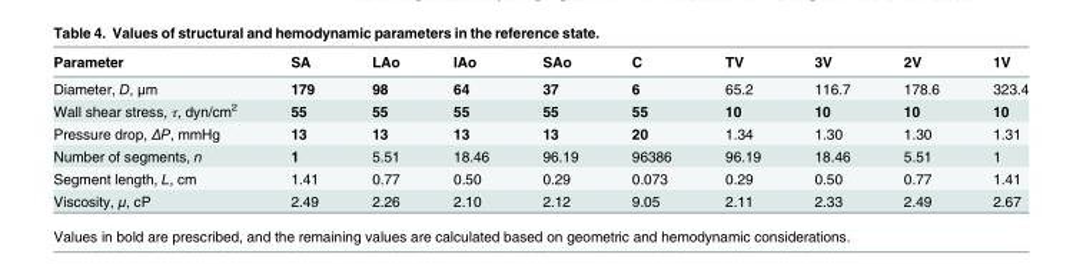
<table><thead><tr><td>Parameter</td><td>SA</td><td>LAo</td><td>IAo</td><td>SAo</td><td>C</td><td>TV</td><td>3V</td><td>2V</td><td>1V</td></tr></thead><tbody><tr><td>Diameter, D, μm</td><td>179</td><td>98</td><td>64</td><td>37</td><td>6</td><td>65.2</td><td>116.7</td><td>178.6</td><td>323.4</td></tr><tr><td>Wall shear stress, τ, dyn/cm<sup>2</sup></td><td>55</td><td>55</td><td>55</td><td>55</td><td>55</td><td>10</td><td>10</td><td>10</td><td>10</td></tr><tr><td>Pressure drop, ΔP, mmHg</td><td>13</td><td>13</td><td>13</td><td>13</td><td>20</td><td>1.34</td><td>1.30</td><td>1.30</td><td>1.31</td></tr><tr><td>Number of segments, n</td><td>1</td><td>5.51</td><td>18.46</td><td>96.19</td><td>96386</td><td>96.19</td><td>18.46</td><td>5.51</td><td>1</td></tr><tr><td>Segment length, L, cm</td><td>1.41</td><td>0.77</td><td>0.50</td><td>0.29</td><td>0.073</td><td>0.29</td><td>0.50</td><td>0.77</td><td>1.41</td></tr><tr><td>Viscosity, μ, cP</td><td>2.49</td><td>2.26</td><td>2.10</td><td>2.12</td><td>9.05</td><td>2.11</td><td>2.33</td><td>2.49</td><td>2.67</td></tr></tbody></table>